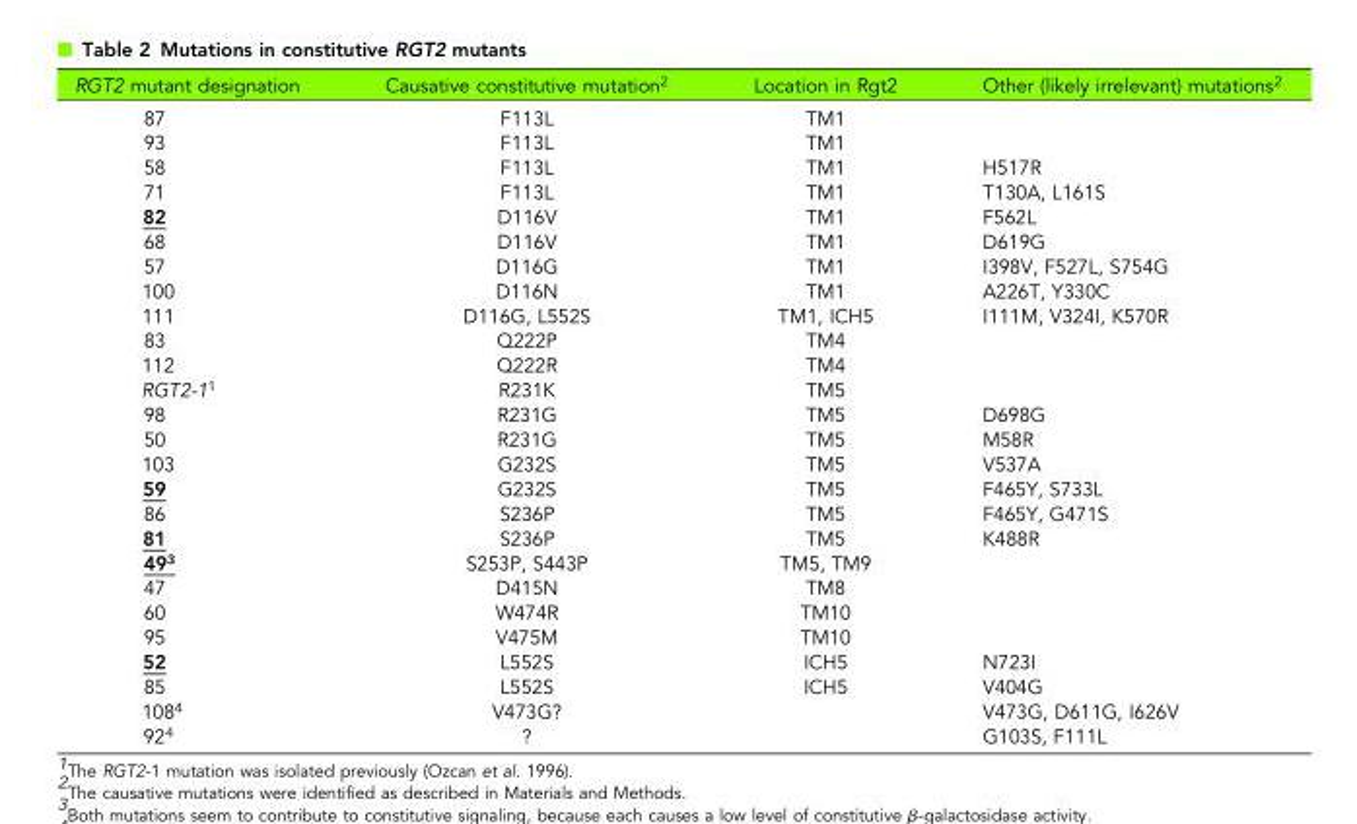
<table><thead><tr><td>RGT2 mutant designation</td><td>Causative constitutive mutation<sup>2</sup></td><td>Location in Rgt2</td><td>Other (likely irrelevant) mutations<sup>2</sup></td></tr></thead><tbody><tr><td>87</td><td>F113L</td><td>TM1</td><td></td></tr><tr><td>93</td><td>F113L</td><td>TM1</td><td></td></tr><tr><td>58</td><td>F113L</td><td>TM1</td><td>H517R</td></tr><tr><td>71</td><td>F113L</td><td>TM1</td><td>T130A, L161S</td></tr><tr><td>82</td><td>D116V</td><td>TM1</td><td>F562L</td></tr><tr><td>68</td><td>D116V</td><td>TM1</td><td>D619G</td></tr><tr><td>57</td><td>D116G</td><td>TM1</td><td>I398V, F527L, S754G</td></tr><tr><td>100</td><td>D116N</td><td>TM1</td><td>A226T, Y330C</td></tr><tr><td>111</td><td>D116G, L552S</td><td>TM1, ICH5</td><td>I111M, V324I, K570R</td></tr><tr><td>83</td><td>Q222P</td><td>TM4</td><td></td></tr><tr><td>112</td><td>Q222R</td><td>TM4</td><td></td></tr><tr><td>RGT2-1<sup>1</sup></td><td>R231K</td><td>TM5</td><td></td></tr><tr><td>98</td><td>R231G</td><td>TM5</td><td>D698G</td></tr><tr><td>50</td><td>R231G</td><td>TM5</td><td>M58R</td></tr><tr><td>103</td><td>G232S</td><td>TM5</td><td>V537A</td></tr><tr><td>59</td><td>G232S</td><td>TM5</td><td>F465Y, S733L</td></tr><tr><td>86</td><td>S236P</td><td>TM5</td><td>F465Y, G471S</td></tr><tr><td>81</td><td>S236P</td><td>TM5</td><td>K488R</td></tr><tr><td>49<sup>3</sup></td><td>S253P, S443P</td><td>TM5, TM9</td><td></td></tr><tr><td>47</td><td>D415N</td><td>TM8</td><td></td></tr><tr><td>60</td><td>W474R</td><td>TM10</td><td></td></tr><tr><td>95</td><td>V475M</td><td>TM10</td><td></td></tr><tr><td>52</td><td>L552S</td><td>ICH5</td><td>N723I</td></tr><tr><td>85</td><td>L552S</td><td>ICH5</td><td>V404G</td></tr><tr><td>108<sup>4</sup></td><td>V473G?</td><td></td><td>V473G, D611G, I626V</td></tr><tr><td>92<sup>4</sup></td><td>?</td><td></td><td>G103S, F111L</td></tr></tbody></table>